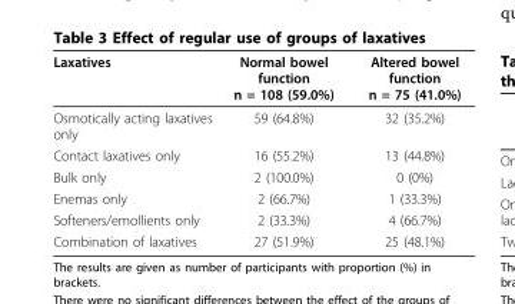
<table><thead><tr><td>Laxatives</td><td>Normal bowel function n = 108 (59.0%)</td><td>Altered bowel function n = 75 (41.0%)</td></tr></thead><tbody><tr><td>Osmotically acting laxatives only</td><td>59 (64.8%)</td><td>32 (35.2%)</td></tr><tr><td>Contact laxatives only</td><td>16 (55.2%)</td><td>13 (44.8%)</td></tr><tr><td>Bulk only</td><td>2 (100.0%)</td><td>0 (0%)</td></tr><tr><td>Enemas only</td><td>2 (66.7%)</td><td>1 (33.3%)</td></tr><tr><td>Softeners/emollients only</td><td>2 (33.3%)</td><td>4 (66.7%)</td></tr><tr><td>Combination of laxatives</td><td>27 (51.9%)</td><td>25 (48.1%)</td></tr></tbody></table>